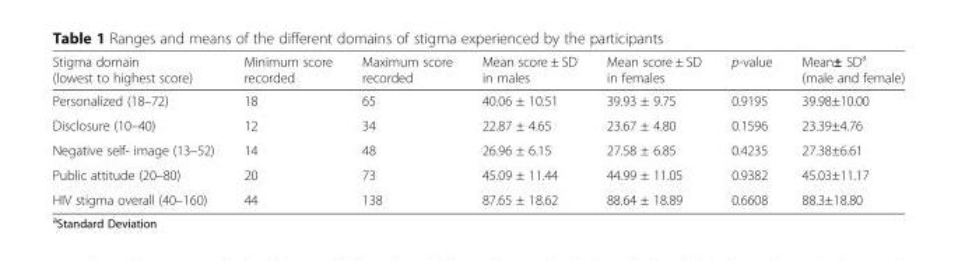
<table><thead><tr><td>Stigma domain (lowest to highest score)</td><td>Minimum score recorded</td><td>Maximum score recorded</td><td>Mean score ± SD in males</td><td>Mean score ± SD in females</td><td>p-value</td><td>Mean± SD<sup>a</sup> (male and female)</td></tr></thead><tbody><tr><td>Personalized (18–72)</td><td>18</td><td>65</td><td>40.06 ± 10.51</td><td>39.93 ± 9.75</td><td>0.9195</td><td>39.98±10.00</td></tr><tr><td>Disclosure (10–40)</td><td>12</td><td>34</td><td>22.87 ± 4.65</td><td>23.67 ± 4.80</td><td>0.1596</td><td>23.39±4.76</td></tr><tr><td>Negative self- image (13–52)</td><td>14</td><td>48</td><td>26.96 ± 6.15</td><td>27.58 ± 6.85</td><td>0.4235</td><td>27.38±6.61</td></tr><tr><td>Public attitude (20–80)</td><td>20</td><td>73</td><td>45.09 ± 11.44</td><td>44.99 ± 11.05</td><td>0.9382</td><td>45.03±11.17</td></tr><tr><td>HIV stigma overall (40–160)</td><td>44</td><td>138</td><td>87.65 ± 18.62</td><td>88.64 ± 18.89</td><td>0.6608</td><td>88.3±18.80</td></tr></tbody></table>